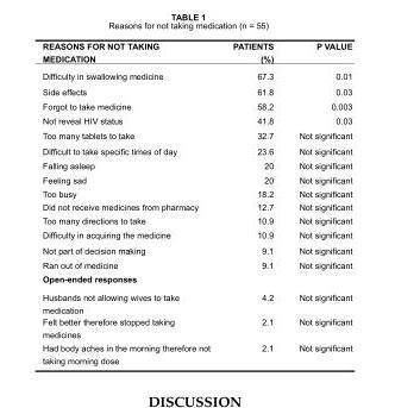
<table><thead><tr><td>REasons FoR not takInG mEdIcatIon</td><td>PatIEnts (%)</td><td>P valUE</td></tr></thead><tbody><tr><td>Difficulty in swallowing medicine</td><td>67.3</td><td>0.01</td></tr><tr><td>Side effects</td><td>61.8</td><td>0.03</td></tr><tr><td>Forgot to take medicine</td><td>58.2</td><td>0.003</td></tr><tr><td>Not reveal HIV status</td><td>41.8</td><td>0.03</td></tr><tr><td>Too many tablets to take</td><td>32.7</td><td>Not significant</td></tr><tr><td>Difficult to take specific times of day</td><td>23.6</td><td>Not significant</td></tr><tr><td>Falling asleep</td><td>20</td><td>Not significant</td></tr><tr><td>Feeling sad</td><td>20</td><td>Not significant</td></tr><tr><td>Too busy</td><td>18.2</td><td>Not significant</td></tr><tr><td>Did not receive medicines from pharmacy</td><td>12.7</td><td>Not significant</td></tr><tr><td>Too many directions to take</td><td>10.9</td><td>Not significant</td></tr><tr><td>Difficulty in acquiring the medicine</td><td>10.9</td><td>Not significant</td></tr><tr><td>Not part of decision making</td><td>9.1</td><td>Not significant</td></tr><tr><td>Ran out of medicine</td><td>9.1</td><td>Not significant</td></tr><tr><td colspan="3">open-ended responses</td></tr><tr><td>Husbands not allowing wives to take medication</td><td>4.2</td><td>Not significant</td></tr><tr><td>Felt better therefore stopped taking medicines</td><td>2.1</td><td>Not significant</td></tr><tr><td>Had body aches in the morning therefore not taking morning dose</td><td>2.1</td><td>Not significant</td></tr></tbody></table>